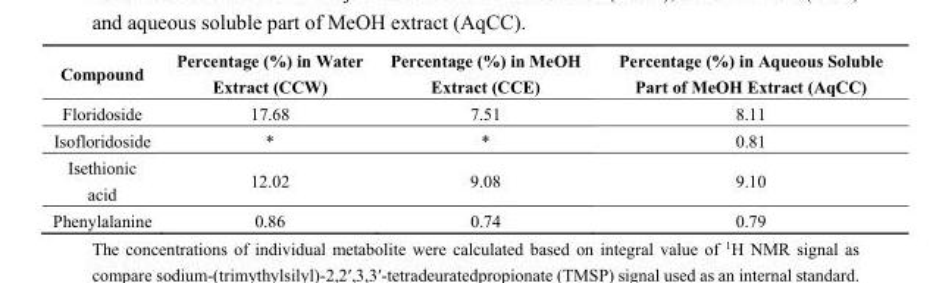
<table><thead><tr><td>Compound</td><td>Percentage (%) in Water Extract (CCW)</td><td>Percentage (%) in MeOH Extract (CCE)</td><td>Percentage (%) in Aqueous Soluble Part of MeOH Extract (AqCC)</td></tr></thead><tbody><tr><td>Floridoside</td><td>17.68</td><td>7.51</td><td>8.11</td></tr><tr><td>Isofloridoside</td><td>*</td><td>*</td><td>0.81</td></tr><tr><td>Isethionic acid</td><td>12.02</td><td>9.08</td><td>9.10</td></tr><tr><td>Phenylalanine</td><td>0.86</td><td>0.74</td><td>0.79</td></tr></tbody></table>